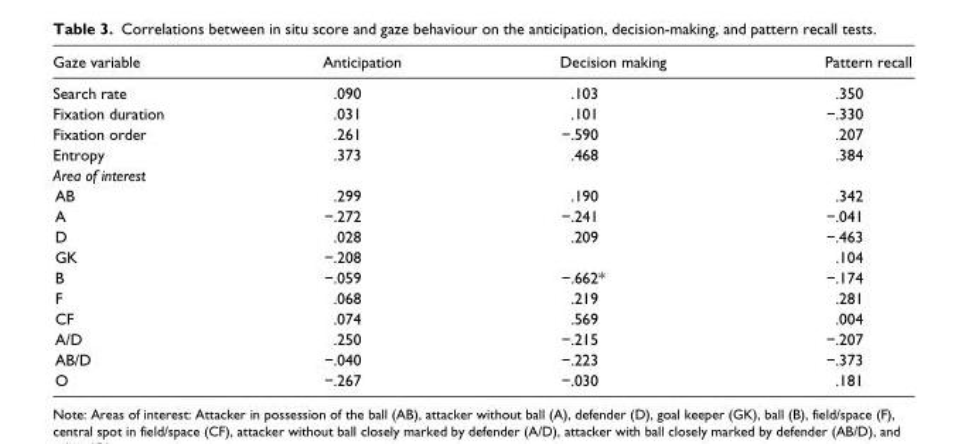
<table><thead><tr><td>Gaze variable</td><td>Anticipation</td><td>Decision making</td><td>Pattern recall</td></tr></thead><tbody><tr><td>Search rate</td><td>.090</td><td>.103</td><td>.350</td></tr><tr><td>Fixation duration</td><td>.031</td><td>.101</td><td>−.330</td></tr><tr><td>Fixation order</td><td>.261</td><td>−.590</td><td>.207</td></tr><tr><td>Entropy</td><td>.373</td><td>.468</td><td>.384</td></tr><tr><td colspan="4">Area of interest</td></tr><tr><td>AB</td><td>.299</td><td>.190</td><td>.342</td></tr><tr><td>A</td><td>−.272</td><td>−.241</td><td>−.041</td></tr><tr><td>D</td><td>.028</td><td>.209</td><td>−.463</td></tr><tr><td>GK</td><td>−.208</td><td></td><td>.104</td></tr><tr><td>B</td><td>−.059</td><td>−.662*</td><td>−.174</td></tr><tr><td>F</td><td>.068</td><td>.219</td><td>.281</td></tr><tr><td>CF</td><td>.074</td><td>.569</td><td>.004</td></tr><tr><td>A/D</td><td>.250</td><td>−.215</td><td>−.207</td></tr><tr><td>AB/D</td><td>−.040</td><td>−.223</td><td>−.373</td></tr><tr><td>O</td><td>−.267</td><td>−.030</td><td>.181</td></tr></tbody></table>